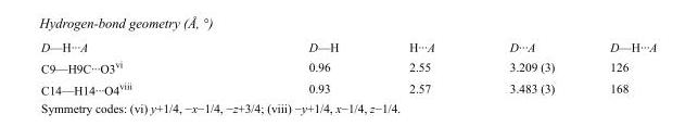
<table><tbody><tr><td>D—H···A</td><td>D—H</td><td>H···A</td><td>D···A</td><td>D—H···A</td></tr><tr><td>C9—H9C···O3<sup>vi</sup></td><td>0.96</td><td>2.55</td><td>3.209 (3)</td><td>126</td></tr><tr><td>C14—H14···O4<sup>viii</sup></td><td>0.93</td><td>2.57</td><td>3.483 (3)</td><td>168</td></tr></tbody></table>